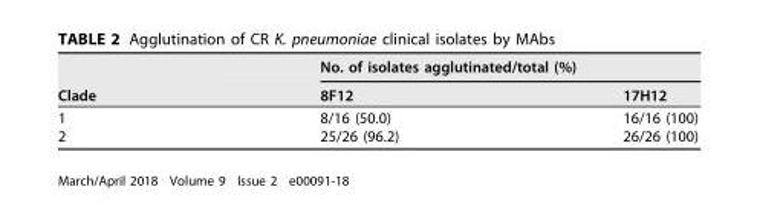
<table><thead><tr><td rowspan="2">Clade</td><td colspan="2">No. of isolates agglutinated/total (%)</td></tr><tr><td>8F12</td><td>17H12</td></tr></thead><tbody><tr><td>1</td><td>8/16 (50.0)</td><td>16/16 (100)</td></tr><tr><td>2</td><td>25/26 (96.2)</td><td>26/26 (100)</td></tr></tbody></table>